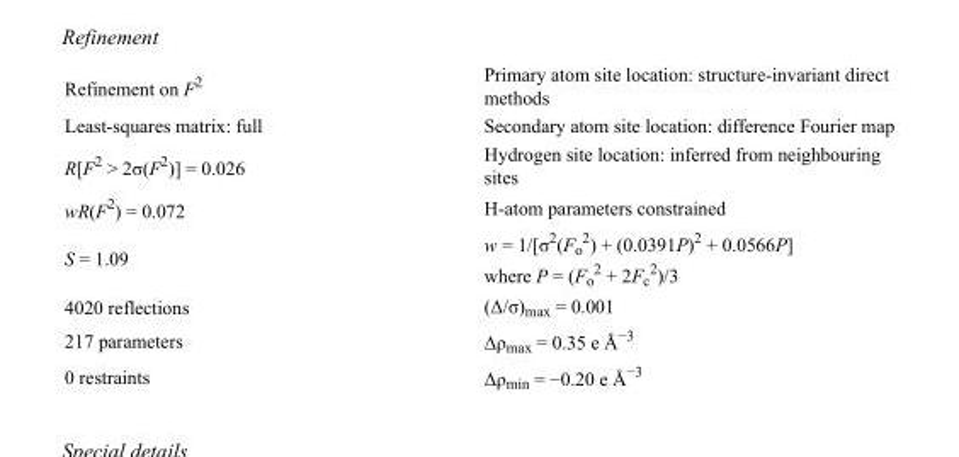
<table><tbody><tr><td>Refinement on F<sup>2</sup></td><td>Primary atom site location: structure-invariant direct methods</td></tr><tr><td>Least-squares matrix: full</td><td>Secondary atom site location: difference Fourier map</td></tr><tr><td>R[F<sup>2</sup> &gt; 2σ(F<sup>2</sup>)] = 0.026</td><td>Hydrogen site location: inferred from neighbouring sites</td></tr><tr><td>wR(F<sup>2</sup>) = 0.072</td><td>H-atom parameters constrained</td></tr><tr><td>S = 1.09</td><td>w = 1/[σ<sup>2</sup>(F<sub>o</sub> <sup>2</sup>) + (0.0391P)<sup>2</sup> + 0.0566P] where P = (F<sub>o</sub> <sup>2</sup> + 2F<sub>c</sub> <sup>2</sup>)/3</td></tr><tr><td>4020 reflections</td><td>(Δ/σ)<sub>max</sub> = 0.001</td></tr><tr><td>217 parameters</td><td>Δρ<sub>max</sub> = 0.35 e Å<sup>−3</sup></td></tr><tr><td>0 restraints</td><td>Δρ<sub>min</sub> = −0.20 e Å<sup>−3</sup></td></tr></tbody></table>